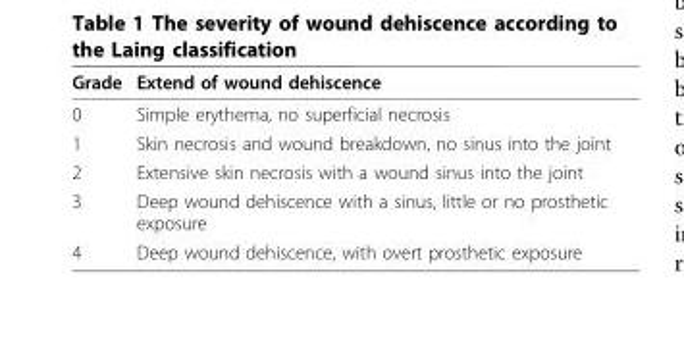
<table><thead><tr><td>Grade</td><td>Extend of wound dehiscence</td></tr></thead><tbody><tr><td>0</td><td>Simple erythema, no superficial necrosis</td></tr><tr><td>1</td><td>Skin necrosis and wound breakdown, no sinus into the joint</td></tr><tr><td>2</td><td>Extensive skin necrosis with a wound sinus into the joint</td></tr><tr><td>3</td><td>Deep wound dehiscence with a sinus, little or no prosthetic exposure</td></tr><tr><td>4</td><td>Deep wound dehiscence, with overt prosthetic exposure</td></tr></tbody></table>